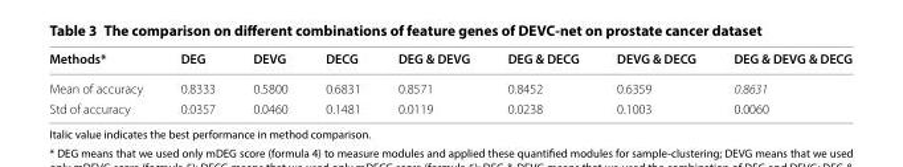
<table><thead><tr><td>Methods*</td><td>DEG</td><td>DEVG</td><td>DECG</td><td>DEG &amp; DEVG</td><td>DEG &amp; DECG</td><td>DEVG &amp; DECG</td><td>DEG &amp; DEVG &amp; DECG</td></tr></thead><tbody><tr><td>Mean of accuracy</td><td>0.8333</td><td>0.5800</td><td>0.6831</td><td>0.8571</td><td>0.8452</td><td>0.6359</td><td>0.8631</td></tr><tr><td>Std of accuracy</td><td>0.0357</td><td>0.0460</td><td>0.1481</td><td>0.0119</td><td>0.0238</td><td>0.1003</td><td>0.0060</td></tr></tbody></table>